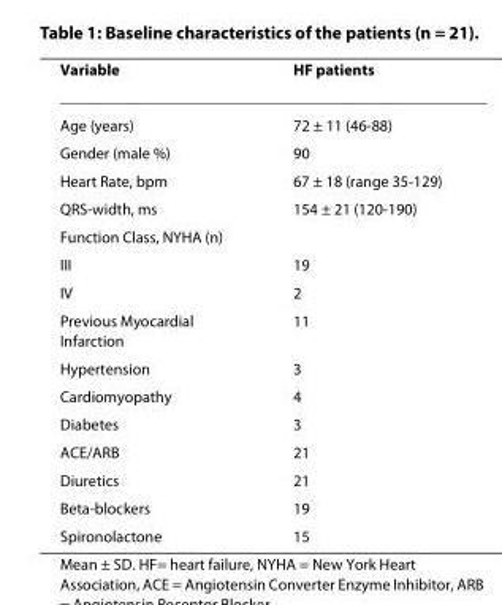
<table><thead><tr><td>Variable</td><td>HF patients</td></tr></thead><tbody><tr><td>Age (years)</td><td>72 ± 11 (46-88)</td></tr><tr><td>Gender (male %)</td><td>90</td></tr><tr><td>Heart Rate, bpm</td><td>67 ± 18 (range 35-129)</td></tr><tr><td>QRS-width, ms</td><td>154 ± 21 (120-190)</td></tr><tr><td colspan="2">Function Class, NYHA (n)</td></tr><tr><td>III</td><td>19</td></tr><tr><td>IV</td><td>2</td></tr><tr><td>Previous Myocardial Infarction</td><td>11</td></tr><tr><td>Hypertension</td><td>3</td></tr><tr><td>Cardiomyopathy</td><td>4</td></tr><tr><td>Diabetes</td><td>3</td></tr><tr><td>ACE/ARB</td><td>21</td></tr><tr><td>Diuretics</td><td>21</td></tr><tr><td>Beta-blockers</td><td>19</td></tr><tr><td>Spironolactone</td><td>15</td></tr></tbody></table>